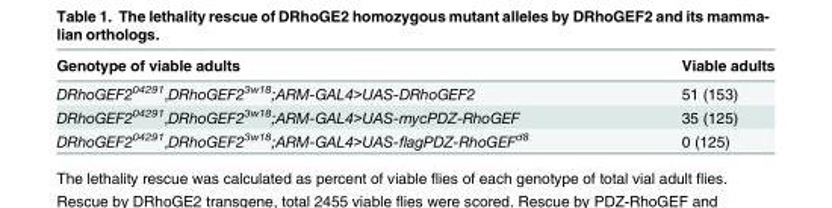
<table><thead><tr><td>Genotype of viable adults</td><td>Viable adults</td></tr></thead><tbody><tr><td>DRhoGEF2<sup>04291</sup>,DRhoGEF2<sup>3w18</sup>;ARM-GAL4&gt;UAS-DRhoGEF2</td><td>51 (153)</td></tr><tr><td>DRhoGEF2<sup>04291</sup>,DRhoGEF2<sup>3w18</sup>;ARM-GAL4&gt;UAS-mycPDZ-RhoGEF</td><td>35 (125)</td></tr><tr><td>DRhoGEF2<sup>04291</sup>,DRhoGEF2<sup>3w18</sup>;ARM-GAL4&gt;UAS-flagPDZ-RhoGEF<sup>d8</sup></td><td>0 (125)</td></tr></tbody></table>